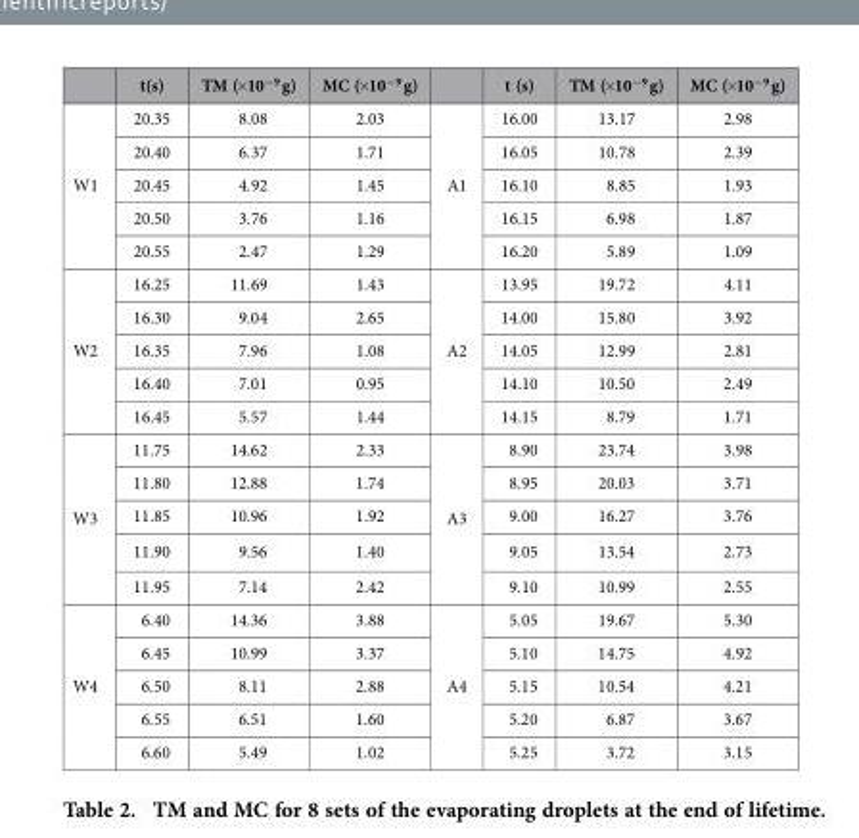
<table><thead><tr><td></td><td>t(s)</td><td>TM (×10−9 g)</td><td>MC (×10−9 g)</td><td></td><td>t (s)</td><td>TM (×10−9 g)</td><td>MC (×10−9 g)</td></tr></thead><tbody><tr><td rowspan="5">W1</td><td>20.35</td><td>8.08</td><td>2.03</td><td rowspan="5">A1</td><td>16.00</td><td>13.17</td><td>2.98</td></tr><tr><td>20.40</td><td>6.37</td><td>1.71</td><td>16.05</td><td>10.78</td><td>2.39</td></tr><tr><td>20.45</td><td>4.92</td><td>1.45</td><td>16.10</td><td>8.85</td><td>1.93</td></tr><tr><td>20.50</td><td>3.76</td><td>1.16</td><td>16.15</td><td>6.98</td><td>1.87</td></tr><tr><td>20.55</td><td>2.47</td><td>1.29</td><td>16.20</td><td>5.89</td><td>1.09</td></tr><tr><td rowspan="5">W2</td><td>16.25</td><td>11.69</td><td>1.43</td><td rowspan="5">A2</td><td>13.95</td><td>19.72</td><td>4.11</td></tr><tr><td>16.30</td><td>9.04</td><td>2.65</td><td>14.00</td><td>15.80</td><td>3.92</td></tr><tr><td>16.35</td><td>7.96</td><td>1.08</td><td>14.05</td><td>12.99</td><td>2.81</td></tr><tr><td>16.40</td><td>7.01</td><td>0.95</td><td>14.10</td><td>10.50</td><td>2.49</td></tr><tr><td>16.45</td><td>5.57</td><td>1.44</td><td>14.15</td><td>8.79</td><td>1.71</td></tr><tr><td rowspan="5">W3</td><td>11.75</td><td>14.62</td><td>2.33</td><td rowspan="5">A3</td><td>8.90</td><td>23.74</td><td>3.98</td></tr><tr><td>11.80</td><td>12.88</td><td>1.74</td><td>8.95</td><td>20.03</td><td>3.71</td></tr><tr><td>11.85</td><td>10.96</td><td>1.92</td><td>9.00</td><td>16.27</td><td>3.76</td></tr><tr><td>11.90</td><td>9.56</td><td>1.40</td><td>9.05</td><td>13.54</td><td>2.73</td></tr><tr><td>11.95</td><td>7.14</td><td>2.42</td><td>9.10</td><td>10.99</td><td>2.55</td></tr><tr><td rowspan="5">W4</td><td>6.40</td><td>14.36</td><td>3.88</td><td rowspan="5">A4</td><td>5.05</td><td>19.67</td><td>5.30</td></tr><tr><td>6.45</td><td>10.99</td><td>3.37</td><td>5.10</td><td>14.75</td><td>4.92</td></tr><tr><td>6.50</td><td>8.11</td><td>2.88</td><td>5.15</td><td>10.54</td><td>4.21</td></tr><tr><td>6.55</td><td>6.51</td><td>1.60</td><td>5.20</td><td>6.87</td><td>3.67</td></tr><tr><td>6.60</td><td>5.49</td><td>1.02</td><td>5.25</td><td>3.72</td><td>3.15</td></tr></tbody></table>